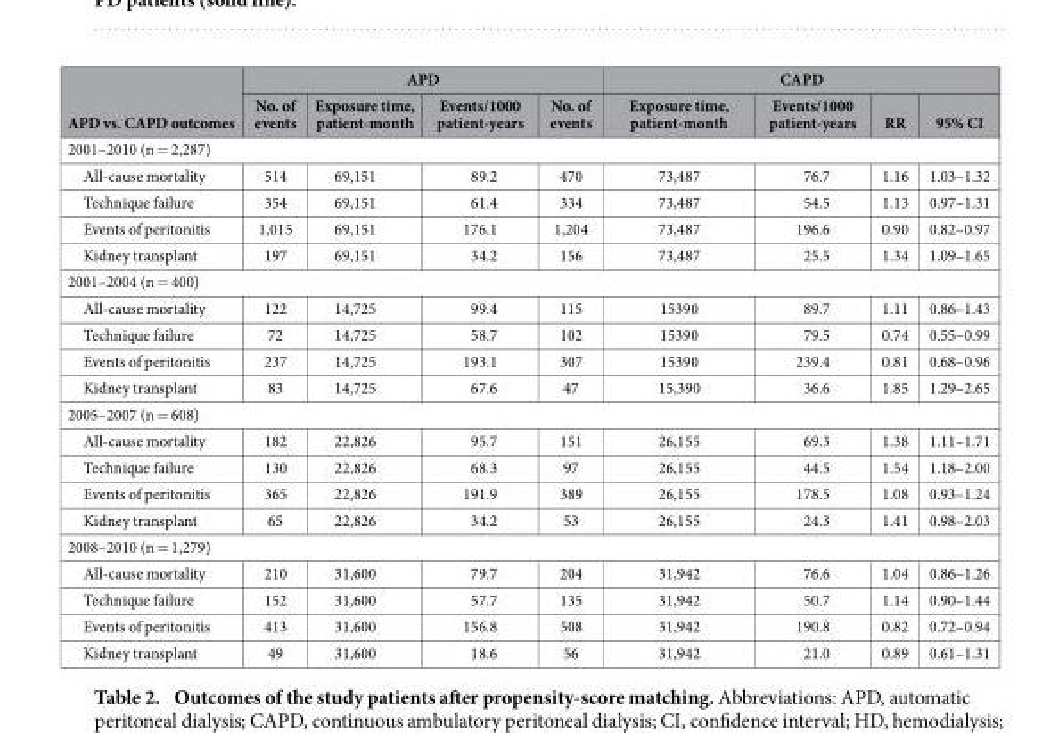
<table><thead><tr><td rowspan="2">APD vs. CAPD outcomes</td><td colspan="4">APD</td><td colspan="4">CAPD</td></tr><tr><td>No. of events</td><td>Exposure time, patient-month</td><td>Events/1000 patient-years</td><td>No. of events</td><td>Exposure time, patient-month</td><td>Events/1000 patient-years</td><td>RR</td><td>95% CI</td></tr></thead><tbody><tr><td colspan="9">2001–2010 (n = 2,287)</td></tr><tr><td>All-cause mortality</td><td>514</td><td>69,151</td><td>89.2</td><td>470</td><td>73,487</td><td>76.7</td><td>1.16</td><td>1.03–1.32</td></tr><tr><td>Technique failure</td><td>354</td><td>69,151</td><td>61.4</td><td>334</td><td>73,487</td><td>54.5</td><td>1.13</td><td>0.97–1.31</td></tr><tr><td>Events of peritonitis</td><td>1,015</td><td>69,151</td><td>176.1</td><td>1,204</td><td>73,487</td><td>196.6</td><td>0.90</td><td>0.82–0.97</td></tr><tr><td>Kidney transplant</td><td>197</td><td>69,151</td><td>34.2</td><td>156</td><td>73,487</td><td>25.5</td><td>1.34</td><td>1.09–1.65</td></tr><tr><td colspan="9">2001–2004 (n = 400)</td></tr><tr><td>All-cause mortality</td><td>122</td><td>14,725</td><td>99.4</td><td>115</td><td>15390</td><td>89.7</td><td>1.11</td><td>0.86–1.43</td></tr><tr><td>Technique failure</td><td>72</td><td>14,725</td><td>58.7</td><td>102</td><td>15390</td><td>79.5</td><td>0.74</td><td>0.55–0.99</td></tr><tr><td>Events of peritonitis</td><td>237</td><td>14,725</td><td>193.1</td><td>307</td><td>15390</td><td>239.4</td><td>0.81</td><td>0.68–0.96</td></tr><tr><td>Kidney transplant</td><td>83</td><td>14,725</td><td>67.6</td><td>47</td><td>15,390</td><td>36.6</td><td>1.85</td><td>1.29–2.65</td></tr><tr><td colspan="9">2005–2007 (n = 608)</td></tr><tr><td>All-cause mortality</td><td>182</td><td>22,826</td><td>95.7</td><td>151</td><td>26,155</td><td>69.3</td><td>1.38</td><td>1.11–1.71</td></tr><tr><td>Technique failure</td><td>130</td><td>22,826</td><td>68.3</td><td>97</td><td>26,155</td><td>44.5</td><td>1.54</td><td>1.18–2.00</td></tr><tr><td>Events of peritonitis</td><td>365</td><td>22,826</td><td>191.9</td><td>389</td><td>26,155</td><td>178.5</td><td>1.08</td><td>0.93–1.24</td></tr><tr><td>Kidney transplant</td><td>65</td><td>22,826</td><td>34.2</td><td>53</td><td>26,155</td><td>24.3</td><td>1.41</td><td>0.98–2.03</td></tr><tr><td colspan="9">2008–2010 (n = 1,279)</td></tr><tr><td>All-cause mortality</td><td>210</td><td>31,600</td><td>79.7</td><td>204</td><td>31,942</td><td>76.6</td><td>1.04</td><td>0.86–1.26</td></tr><tr><td>Technique failure</td><td>152</td><td>31,600</td><td>57.7</td><td>135</td><td>31,942</td><td>50.7</td><td>1.14</td><td>0.90–1.44</td></tr><tr><td>Events of peritonitis</td><td>413</td><td>31,600</td><td>156.8</td><td>508</td><td>31,942</td><td>190.8</td><td>0.82</td><td>0.72–0.94</td></tr><tr><td>Kidney transplant</td><td>49</td><td>31,600</td><td>18.6</td><td>56</td><td>31,942</td><td>21.0</td><td>0.89</td><td>0.61–1.31</td></tr></tbody></table>